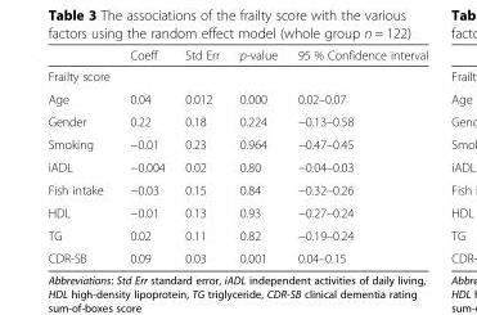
<table><thead><tr><td></td><td>Coeff</td><td>Std Err</td><td>p-value</td><td>95 % Confidence interval</td></tr></thead><tbody><tr><td colspan="5">Frailty score</td></tr><tr><td>Age</td><td>0.04</td><td>0.012</td><td>0.000</td><td>0.02–0.07</td></tr><tr><td>Gender</td><td>0.22</td><td>0.18</td><td>0.224</td><td>−0.13–0.58</td></tr><tr><td>Smoking</td><td>−0.01</td><td>0.23</td><td>0.964</td><td>−0.47–0.45</td></tr><tr><td>iADL</td><td>−0.004</td><td>0.02</td><td>0.80</td><td>−0.04–0.03</td></tr><tr><td>Fish intake</td><td>−0.03</td><td>0.15</td><td>0.84</td><td>−0.32–0.26</td></tr><tr><td>HDL</td><td>−0.01</td><td>0.13</td><td>0.93</td><td>−0.27–0.24</td></tr><tr><td>TG</td><td>0.02</td><td>0.11</td><td>0.82</td><td>−0.19–0.24</td></tr><tr><td>CDR-SB</td><td>0.09</td><td>0.03</td><td>0.001</td><td>0.04–0.15</td></tr></tbody></table>